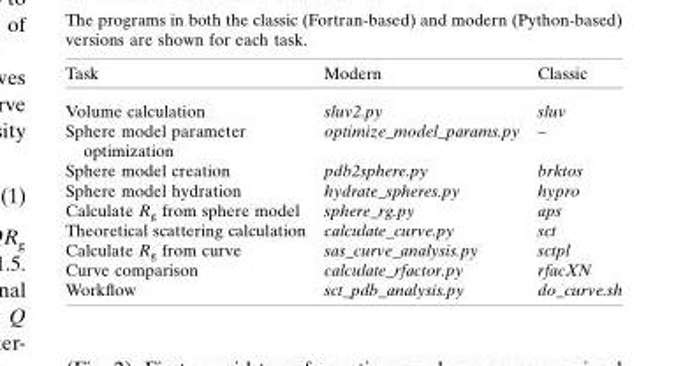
<table><thead><tr><td>Task</td><td>Modern</td><td>Classic</td></tr></thead><tbody><tr><td>Volume calculation</td><td>sluv2.py</td><td>sluv</td></tr><tr><td>Sphere model parameter optimization</td><td>optimize_model_params.py</td><td>–</td></tr><tr><td>Sphere model creation</td><td>pdb2sphere.py</td><td>brktos</td></tr><tr><td>Sphere model hydration</td><td>hydrate_spheres.py</td><td>hypro</td></tr><tr><td>Calculate R<sub>g</sub> from sphere model</td><td>sphere_rg.py</td><td>aps</td></tr><tr><td>Theoretical scattering calculation</td><td>calculate_curve.py</td><td>sct</td></tr><tr><td>Calculate R<sub>g</sub> from curve</td><td>sas_curve_analysis.py</td><td>sctpl</td></tr><tr><td>Curve comparison</td><td>calculate_rfactor.py</td><td>rfacXN</td></tr><tr><td>Workflow</td><td>sct_pdb_analysis.py</td><td>do_curve.sh</td></tr></tbody></table>